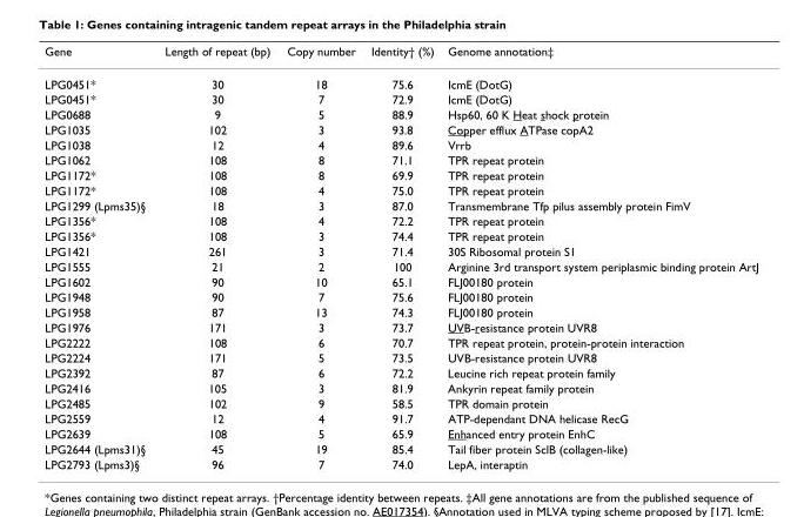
<table><thead><tr><td>Gene</td><td>Length of repeat (bp)</td><td>Copy number</td><td>Identity† (%)</td><td>Genome annotation‡</td></tr></thead><tbody><tr><td>LPG0451*</td><td>30</td><td>18</td><td>75.6</td><td>IcmE (DotG)</td></tr><tr><td>LPG0451*</td><td>30</td><td>7</td><td>72.9</td><td>IcmE (DotG)</td></tr><tr><td>LPG0688</td><td>9</td><td>5</td><td>88.9</td><td>Hsp60, 60 K Heat shock protein</td></tr><tr><td>LPG1035</td><td>102</td><td>3</td><td>93.8</td><td>Copper efflux ATPase copA2</td></tr><tr><td>LPG1038</td><td>12</td><td>4</td><td>89.6</td><td>Vrrb</td></tr><tr><td>LPG1062</td><td>108</td><td>8</td><td>71.1</td><td>TPR repeat protein</td></tr><tr><td>LPG1172*</td><td>108</td><td>8</td><td>69.9</td><td>TPR repeat protein</td></tr><tr><td>LPG1172*</td><td>108</td><td>4</td><td>75.0</td><td>TPR repeat protein</td></tr><tr><td>LPG1299 (Lpms35)§</td><td>18</td><td>3</td><td>87.0</td><td>Transmembrane Tfp pilus assembly protein FimV</td></tr><tr><td>LPG1356*</td><td>108</td><td>4</td><td>72.2</td><td>TPR repeat protein</td></tr><tr><td>LPG1356*</td><td>108</td><td>3</td><td>74.4</td><td>TPR repeat protein</td></tr><tr><td>LPG1421</td><td>261</td><td>3</td><td>71.4</td><td>30S Ribosomal protein S1</td></tr><tr><td>LPG1555</td><td>21</td><td>2</td><td>100</td><td>Arginine 3rd transport system periplasmic binding protein ArtJ</td></tr><tr><td>LPG1602</td><td>90</td><td>10</td><td>65.1</td><td>FLJ00180 protein</td></tr><tr><td>LPG1948</td><td>90</td><td>7</td><td>75.6</td><td>FLJ00180 protein</td></tr><tr><td>LPG1958</td><td>87</td><td>13</td><td>74.3</td><td>FLJ00180 protein</td></tr><tr><td>LPG1976</td><td>171</td><td>3</td><td>73.7</td><td>UVB-resistance protein UVR8</td></tr><tr><td>LPG2222</td><td>108</td><td>6</td><td>70.7</td><td>TPR repeat protein, protein-protein interaction</td></tr><tr><td>LPG2224</td><td>171</td><td>5</td><td>73.5</td><td>UVB-resistance protein UVR8</td></tr><tr><td>LPG2392</td><td>87</td><td>6</td><td>72.2</td><td>Leucine rich repeat protein family</td></tr><tr><td>LPG2416</td><td>105</td><td>3</td><td>81.9</td><td>Ankyrin repeat family protein</td></tr><tr><td>LPG2485</td><td>102</td><td>9</td><td>58.5</td><td>TPR domain protein</td></tr><tr><td>LPG2559</td><td>12</td><td>4</td><td>91.7</td><td>ATP-dependant DNA helicase RecG</td></tr><tr><td>LPG2639</td><td>108</td><td>5</td><td>65.9</td><td>Enhanced entry protein EnhC</td></tr><tr><td>LPG2644 (Lpms31)§</td><td>45</td><td>19</td><td>85.4</td><td>Tail fiber protein SclB (collagen-like)</td></tr><tr><td>LPG2793 (Lpms3)§</td><td>96</td><td>7</td><td>74.0</td><td>LepA, interaptin</td></tr></tbody></table>